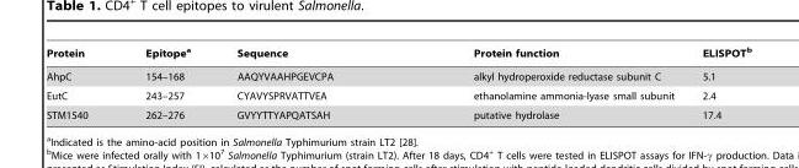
<table><thead><tr><td>Protein</td><td>Epitope<sup>a</sup></td><td>Sequence</td><td>Protein function</td><td>ELISPOT<sup>b</sup></td></tr></thead><tbody><tr><td>AhpC</td><td>154–168</td><td>AAQYVAAHPGEVCPA</td><td>alkyl hydroperoxide reductase subunit C</td><td>5.1</td></tr><tr><td>EutC</td><td>243–257</td><td>CYAVYSPRVATTVEA</td><td>ethanolamine ammonia-lyase small subunit</td><td>2.4</td></tr><tr><td>STM1540</td><td>262–276</td><td>GVYYTTYAPQATSAH</td><td>putative hydrolase</td><td>17.4</td></tr></tbody></table>